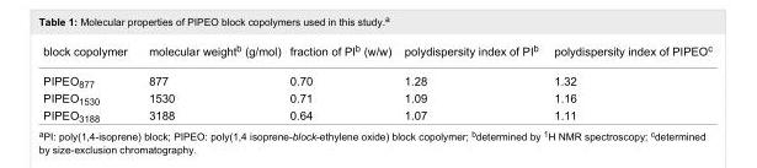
<table><tbody><tr><td>block copolymer</td><td>molecular weight<sup>b</sup> (g/mol)</td><td>fraction of PI<sup>b</sup> (w/w)</td><td>polydispersity index of PI<sup>b</sup></td><td>polydispersity index of PIPEO<sup>c</sup></td></tr><tr><td>PIPEO<sub>877</sub></td><td>877</td><td>0.70</td><td>1.28</td><td>1.32</td></tr><tr><td>PIPEO<sub>1530</sub></td><td>1530</td><td>0.71</td><td>1.09</td><td>1.16</td></tr><tr><td>PIPEO<sub>3188</sub></td><td>3188</td><td>0.64</td><td>1.07</td><td>1.11</td></tr></tbody></table>